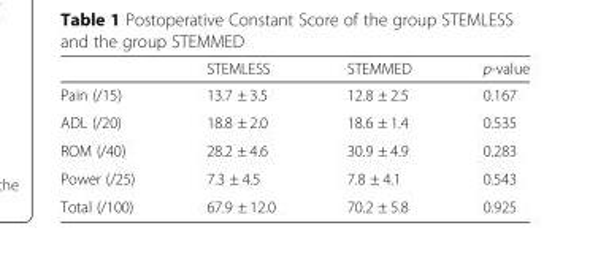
<table><thead><tr><td></td><td>STEMLESS</td><td>STEMMED</td><td>p-value</td></tr></thead><tbody><tr><td>Pain (/15)</td><td>13.7 ± 3.5</td><td>12.8 ± 2.5</td><td>0.167</td></tr><tr><td>ADL (/20)</td><td>18.8 ± 2.0</td><td>18.6 ± 1.4</td><td>0.535</td></tr><tr><td>ROM (/40)</td><td>28.2 ± 4.6</td><td>30.9 ± 4.9</td><td>0.283</td></tr><tr><td>Power (/25)</td><td>7.3 ± 4.5</td><td>7.8 ± 4.1</td><td>0.543</td></tr><tr><td>Total (/100)</td><td>67.9 ± 12.0</td><td>70.2 ± 5.8</td><td>0.925</td></tr></tbody></table>